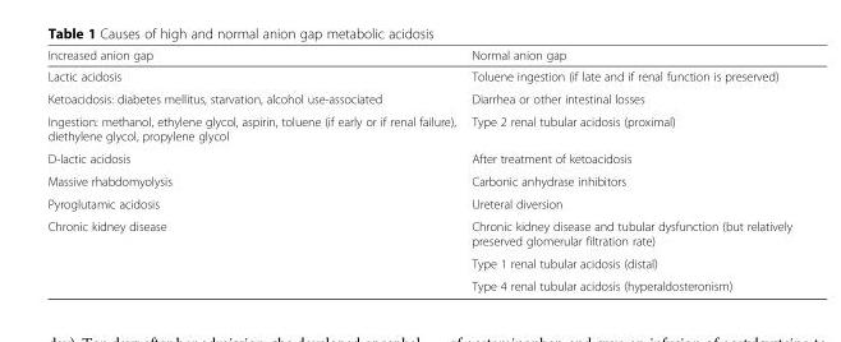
<table><thead><tr><td>Increased anion gap</td><td>Normal anion gap</td></tr></thead><tbody><tr><td>Lactic acidosis</td><td>Toluene ingestion (if late and if renal function is preserved)</td></tr><tr><td>Ketoacidosis: diabetes mellitus, starvation, alcohol use-associated</td><td>Diarrhea or other intestinal losses</td></tr><tr><td>Ingestion: methanol, ethylene glycol, aspirin, toluene (if early or if renal failure), diethylene glycol, propylene glycol</td><td>Type 2 renal tubular acidosis (proximal)</td></tr><tr><td>D-lactic acidosis</td><td>After treatment of ketoacidosis</td></tr><tr><td>Massive rhabdomyolysis</td><td>Carbonic anhydrase inhibitors</td></tr><tr><td>Pyroglutamic acidosis</td><td>Ureteral diversion</td></tr><tr><td rowspan="3">Chronic kidney disease</td><td>Chronic kidney disease and tubular dysfunction (but relatively preserved glomerular filtration rate)</td></tr><tr><td>Type 1 renal tubular acidosis (distal)</td></tr><tr><td>Type 4 renal tubular acidosis (hyperaldosteronism)</td></tr></tbody></table>